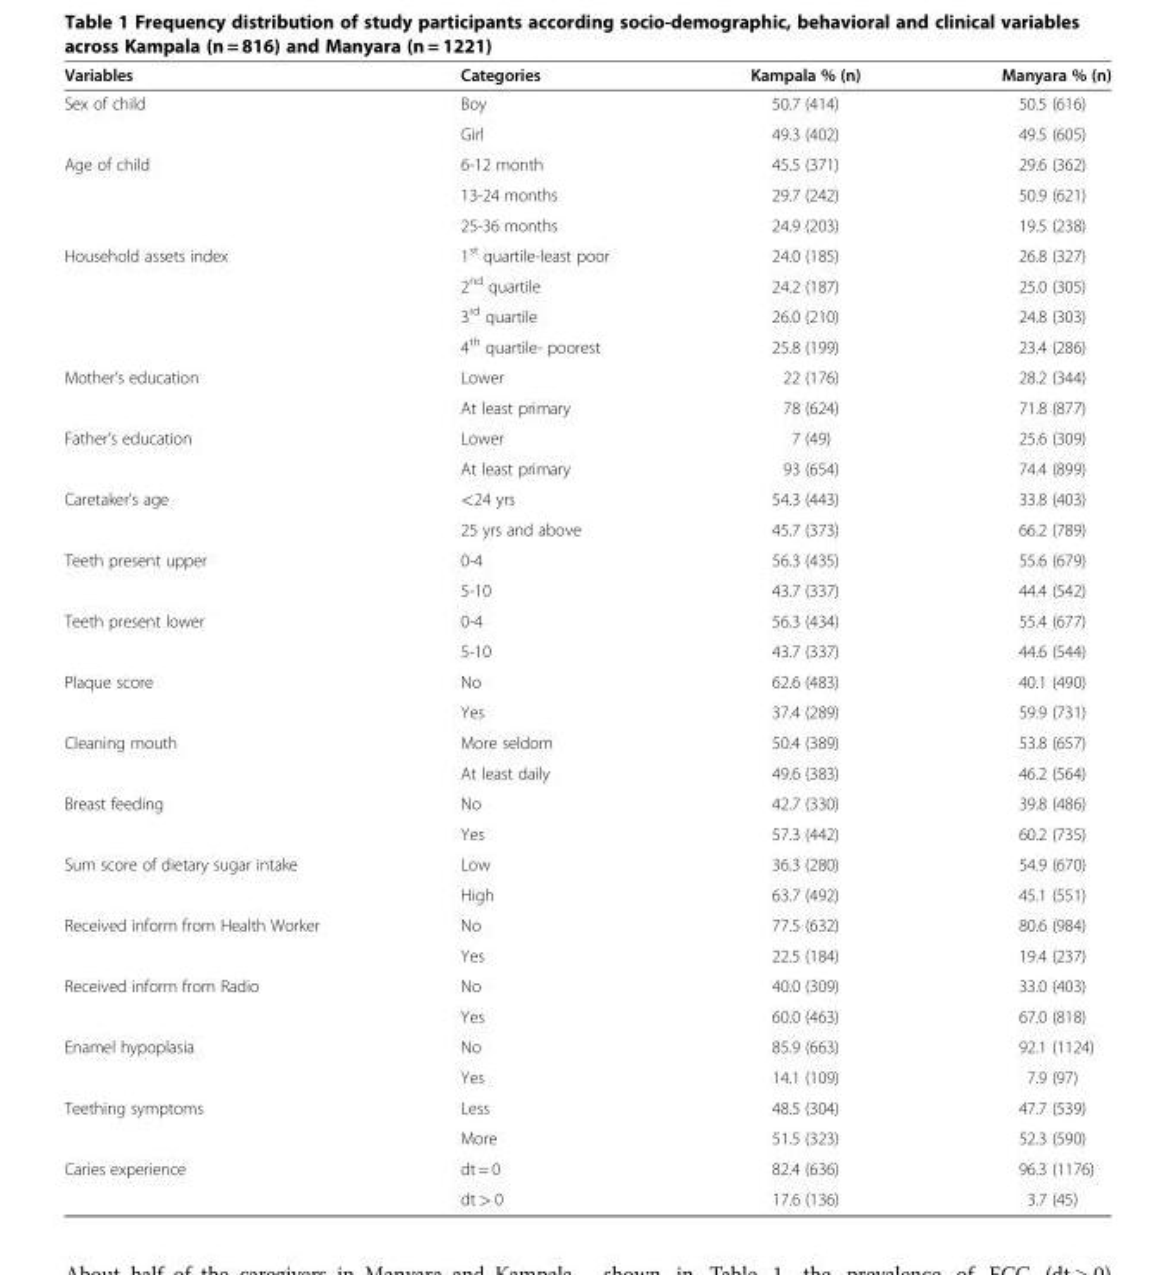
<table><thead><tr><td>Variables</td><td>Categories</td><td>Kampala % (n)</td><td>Manyara % (n)</td></tr></thead><tbody><tr><td rowspan="2">Sex of child</td><td>Boy</td><td>50.7 (414)</td><td>50.5 (616)</td></tr><tr><td>Girl</td><td>49.3 (402)</td><td>49.5 (605)</td></tr><tr><td rowspan="3">Age of child</td><td>6-12 month</td><td>45.5 (371)</td><td>29.6 (362)</td></tr><tr><td>13-24 months</td><td>29.7 (242)</td><td>50.9 (621)</td></tr><tr><td>25-36 months</td><td>24.9 (203)</td><td>19.5 (238)</td></tr><tr><td rowspan="4">Household assets index</td><td>1<sup>st</sup> quartile-least poor</td><td>24.0 (185)</td><td>26.8 (327)</td></tr><tr><td>2<sup>nd</sup> quartile</td><td>24.2 (187)</td><td>25.0 (305)</td></tr><tr><td>3<sup>rd</sup> quartile</td><td>26.0 (210)</td><td>24.8 (303)</td></tr><tr><td>4<sup>th</sup> quartile- poorest</td><td>25.8 (199)</td><td>23.4 (286)</td></tr><tr><td rowspan="2">Mother’s education</td><td>Lower</td><td>22 (176)</td><td>28.2 (344)</td></tr><tr><td>At least primary</td><td>78 (624)</td><td>71.8 (877)</td></tr><tr><td rowspan="2">Father’s education</td><td>Lower</td><td>7 (49)</td><td>25.6 (309)</td></tr><tr><td>At least primary</td><td>93 (654)</td><td>74.4 (899)</td></tr><tr><td rowspan="2">Caretaker’s age</td><td>&lt;24 yrs</td><td>54.3 (443)</td><td>33.8 (403)</td></tr><tr><td>25 yrs and above</td><td>45.7 (373)</td><td>66.2 (789)</td></tr><tr><td rowspan="2">Teeth present upper</td><td>0-4</td><td>56.3 (435)</td><td>55.6 (679)</td></tr><tr><td>5-10</td><td>43.7 (337)</td><td>44.4 (542)</td></tr><tr><td rowspan="2">Teeth present lower</td><td>0-4</td><td>56.3 (434)</td><td>55.4 (677)</td></tr><tr><td>5-10</td><td>43.7 (337)</td><td>44.6 (544)</td></tr><tr><td rowspan="2">Plaque score</td><td>No</td><td>62.6 (483)</td><td>40.1 (490)</td></tr><tr><td>Yes</td><td>37.4 (289)</td><td>59.9 (731)</td></tr><tr><td rowspan="2">Cleaning mouth</td><td>More seldom</td><td>50.4 (389)</td><td>53.8 (657)</td></tr><tr><td>At least daily</td><td>49.6 (383)</td><td>46.2 (564)</td></tr><tr><td rowspan="2">Breast feeding</td><td>No</td><td>42.7 (330)</td><td>39.8 (486)</td></tr><tr><td>Yes</td><td>57.3 (442)</td><td>60.2 (735)</td></tr><tr><td rowspan="2">Sum score of dietary sugar intake</td><td>Low</td><td>36.3 (280)</td><td>54.9 (670)</td></tr><tr><td>High</td><td>63.7 (492)</td><td>45.1 (551)</td></tr><tr><td rowspan="2">Received inform from Health Worker</td><td>No</td><td>77.5 (632)</td><td>80.6 (984)</td></tr><tr><td>Yes</td><td>22.5 (184)</td><td>19.4 (237)</td></tr><tr><td rowspan="2">Received inform from Radio</td><td>No</td><td>40.0 (309)</td><td>33.0 (403)</td></tr><tr><td>Yes</td><td>60.0 (463)</td><td>67.0 (818)</td></tr><tr><td rowspan="2">Enamel hypoplasia</td><td>No</td><td>85.9 (663)</td><td>92.1 (1124)</td></tr><tr><td>Yes</td><td>14.1 (109)</td><td>7.9 (97)</td></tr><tr><td rowspan="2">Teething symptoms</td><td>Less</td><td>48.5 (304)</td><td>47.7 (539)</td></tr><tr><td>More</td><td>51.5 (323)</td><td>52.3 (590)</td></tr><tr><td rowspan="2">Caries experience</td><td>dt = 0</td><td>82.4 (636)</td><td>96.3 (1176)</td></tr><tr><td>dt &gt; 0</td><td>17.6 (136)</td><td>3.7 (45)</td></tr></tbody></table>